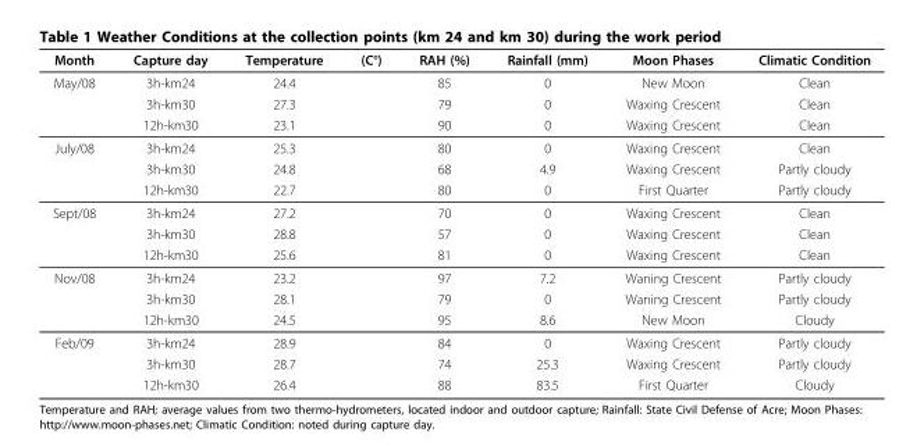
<table><thead><tr><td>Month</td><td>Capture day</td><td>Temperature</td><td>(C°)</td><td>RAH (%)</td><td>Rainfall (mm)</td><td>Moon Phases</td><td>Climatic Condition</td></tr></thead><tbody><tr><td rowspan="3">May/08</td><td>3h-km24</td><td>24.4</td><td></td><td>85</td><td>0</td><td>New Moon</td><td>Clean</td></tr><tr><td>3h-km30</td><td>27.3</td><td></td><td>79</td><td>0</td><td>Waxing Crescent</td><td>Clean</td></tr><tr><td>12h-km30</td><td>23.1</td><td></td><td>90</td><td>0</td><td>Waxing Crescent</td><td>Clean</td></tr><tr><td rowspan="3">July/08</td><td>3h-km24</td><td>25.3</td><td></td><td>80</td><td>0</td><td>Waxing Crescent</td><td>Clean</td></tr><tr><td>3h-km30</td><td>24.8</td><td></td><td>68</td><td>4.9</td><td>Waxing Crescent</td><td>Partly cloudy</td></tr><tr><td>12h-km30</td><td>22.7</td><td></td><td>80</td><td>0</td><td>First Quarter</td><td>Partly cloudy</td></tr><tr><td rowspan="3">Sept/08</td><td>3h-km24</td><td>27.2</td><td></td><td>70</td><td>0</td><td>Waxing Crescent</td><td>Clean</td></tr><tr><td>3h-km30</td><td>28.8</td><td></td><td>57</td><td>0</td><td>Waxing Crescent</td><td>Clean</td></tr><tr><td>12h-km30</td><td>25.6</td><td></td><td>81</td><td>0</td><td>Waxing Crescent</td><td>Clean</td></tr><tr><td rowspan="3">Nov/08</td><td>3h-km24</td><td>23.2</td><td></td><td>97</td><td>7.2</td><td>Waning Crescent</td><td>Partly cloudy</td></tr><tr><td>3h-km30</td><td>28.1</td><td></td><td>79</td><td>0</td><td>Waning Crescent</td><td>Partly cloudy</td></tr><tr><td>12h-km30</td><td>24.5</td><td></td><td>95</td><td>8.6</td><td>New Moon</td><td>Cloudy</td></tr><tr><td rowspan="3">Feb/09</td><td>3h-km24</td><td>28.9</td><td></td><td>84</td><td>0</td><td>Waxing Crescent</td><td>Partly cloudy</td></tr><tr><td>3h-km30</td><td>28.7</td><td></td><td>74</td><td>25.3</td><td>Waxing Crescent</td><td>Partly cloudy</td></tr><tr><td>12h-km30</td><td>26.4</td><td></td><td>88</td><td>83.5</td><td>First Quarter</td><td>Cloudy</td></tr></tbody></table>